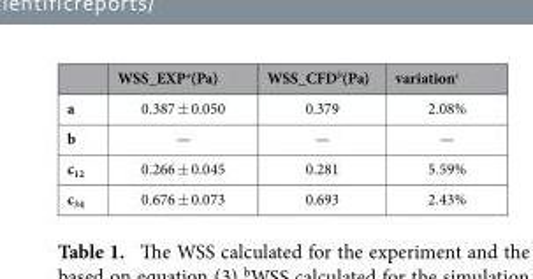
<table><thead><tr><td></td><td>WSS_EXP<sup>a</sup>(Pa)</td><td>WSS_CFD<sup>b</sup>(Pa)</td><td>variation<sup>c</sup></td></tr></thead><tbody><tr><td>a</td><td>0.387 ± 0.050</td><td>0.379</td><td>2.08%</td></tr><tr><td>b</td><td>—</td><td>—</td><td>—</td></tr><tr><td>c<sub>12</sub></td><td>0.266 ± 0.045</td><td>0.281</td><td>5.59%</td></tr><tr><td>c<sub>34</sub></td><td>0.676 ± 0.073</td><td>0.693</td><td>2.43%</td></tr></tbody></table>